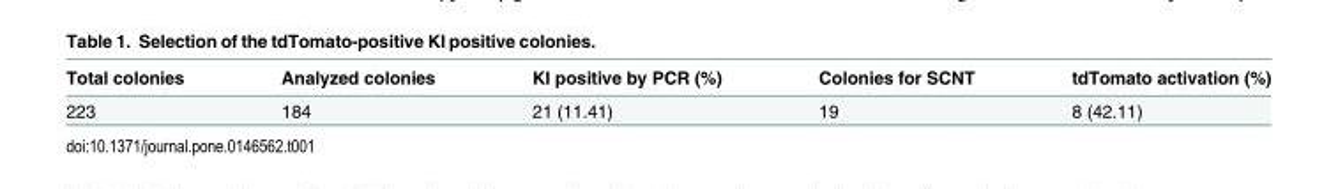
<table><thead><tr><td>Total colonies</td><td>Analyzed colonies</td><td>KI positive by PCR (%)</td><td>Colonies for SCNT</td><td>tdTomato activation (%)</td></tr></thead><tbody><tr><td>223</td><td>184</td><td>21 (11.41)</td><td>19</td><td>8 (42.11)</td></tr></tbody></table>